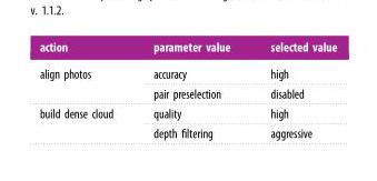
<table><thead><tr><td>action</td><td>parameter value</td><td>selected value</td></tr></thead><tbody><tr><td rowspan="2">align photos</td><td>accuracy</td><td>high</td></tr><tr><td>pair preselection</td><td>disabled</td></tr><tr><td rowspan="2">build dense cloud</td><td>quality</td><td>high</td></tr><tr><td>depth filtering</td><td>aggressive</td></tr></tbody></table>